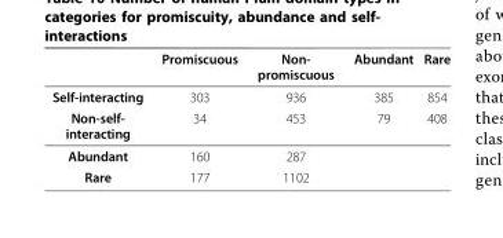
<table><thead><tr><td></td><td>Promiscuous</td><td>Non- promiscuous</td><td>Abundant</td><td>Rare</td></tr></thead><tbody><tr><td>Self-interacting</td><td>303</td><td>936</td><td>385</td><td>854</td></tr><tr><td>Non-self- interacting</td><td>34</td><td>453</td><td>79</td><td>408</td></tr><tr><td>Abundant</td><td>160</td><td>287</td><td></td><td></td></tr><tr><td>Rare</td><td>177</td><td>1102</td><td></td><td></td></tr></tbody></table>